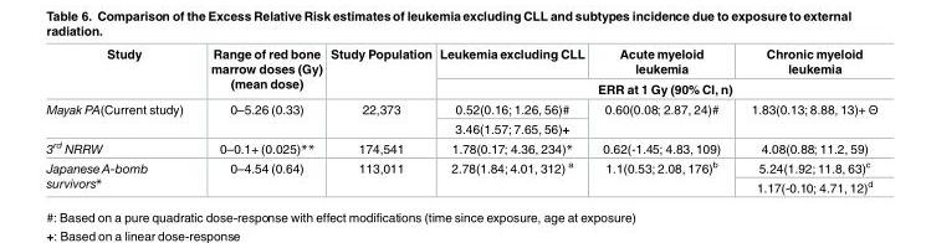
<table><thead><tr><td rowspan="2">Study</td><td rowspan="2">Range of red bone marrow doses (Gy) (mean dose)</td><td rowspan="2">Study Population</td><td>Leukemia excluding CLL</td><td>Acute myeloid leukemia</td><td>Chronic myeloid leukemia</td></tr><tr><td colspan="3">ERR at 1 Gy (90% CI, n)</td></tr></thead><tbody><tr><td rowspan="2">Mayak PA(Current study)</td><td rowspan="2">0–5.26 (0.33)</td><td rowspan="2">22,373</td><td>0.52(0.16; 1.26, 56)#</td><td rowspan="2">0.60(0.08; 2.87, 24)#</td><td rowspan="2">1.83(0.13; 8.88, 13)+ Θ</td></tr><tr><td>3.46(1.57; 7.65, 56)+</td></tr><tr><td>3<sup>rd</sup> NRRW</td><td>0–0.1+ (0.025)**</td><td>174,541</td><td>1.78(0.17; 4.36, 234)*</td><td>0.62(-1.45; 4.83, 109)</td><td>4.08(0.88; 11.2, 59)</td></tr><tr><td rowspan="2">Japanese A-bomb survivors*</td><td rowspan="2">0–4.54 (0.64)</td><td rowspan="2">113,011</td><td rowspan="2">2.78(1.84; 4.01, 312) <sup>a</sup></td><td rowspan="2">1.1(0.53; 2.08, 176)<sup>b</sup></td><td>5.24(1.92; 11.8, 63)<sup>c</sup></td></tr><tr><td>1.17(-0.10; 4.71, 12)<sup>d</sup></td></tr></tbody></table>